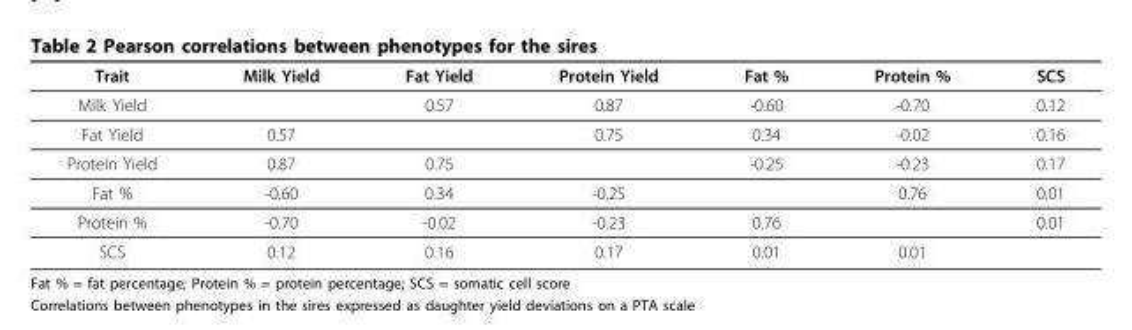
<table><thead><tr><td>Trait</td><td>Milk Yield</td><td>Fat Yield</td><td>Protein Yield</td><td>Fat %</td><td>Protein %</td><td>SCS</td></tr></thead><tbody><tr><td>Milk Yield</td><td></td><td>0.57</td><td>0.87</td><td>-0.60</td><td>-0.70</td><td>0.12</td></tr><tr><td>Fat Yield</td><td>0.57</td><td></td><td>0.75</td><td>0.34</td><td>-0.02</td><td>0.16</td></tr><tr><td>Protein Yield</td><td>0.87</td><td>0.75</td><td></td><td>-0.25</td><td>-0.23</td><td>0.17</td></tr><tr><td>Fat %</td><td>-0.60</td><td>0.34</td><td>-0.25</td><td></td><td>0.76</td><td>0.01</td></tr><tr><td>Protein %</td><td>-0.70</td><td>-0.02</td><td>-0.23</td><td>0.76</td><td></td><td>0.01</td></tr><tr><td>SCS</td><td>0.12</td><td>0.16</td><td>0.17</td><td>0.01</td><td>0.01</td><td></td></tr></tbody></table>